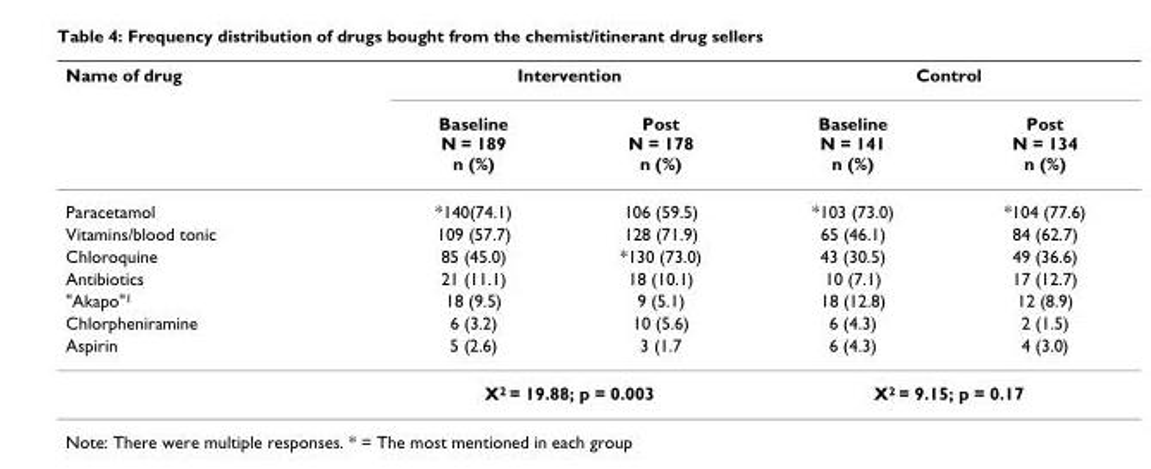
<table><thead><tr><td rowspan="2">Name of drug</td><td colspan="2">Intervention</td><td colspan="2">Control</td></tr><tr><td>Baseline N = 189 n (%)</td><td>Post N = 178 n (%)</td><td>Baseline N = 141 n (%)</td><td>Post N = 134 n (%)</td></tr></thead><tbody><tr><td>Paracetamol</td><td>*140(74.1)</td><td>106 (59.5)</td><td>*103 (73.0)</td><td>*104 (77.6)</td></tr><tr><td>Vitamins/blood tonic</td><td>109 (57.7)</td><td>128 (71.9)</td><td>65 (46.1)</td><td>84 (62.7)</td></tr><tr><td>Chloroquine</td><td>85 (45.0)</td><td>*130 (73.0)</td><td>43 (30.5)</td><td>49 (36.6)</td></tr><tr><td>Antibiotics</td><td>21 (11.1)</td><td>18 (10.1)</td><td>10 (7.1)</td><td>17 (12.7)</td></tr><tr><td>&quot;Akapo&quot;<sup>1</sup></td><td>18 (9.5)</td><td>9 (5.1)</td><td>18 (12.8)</td><td>12 (8.9)</td></tr><tr><td>Chlorpheniramine</td><td>6 (3.2)</td><td>10 (5.6)</td><td>6 (4.3)</td><td>2 (1.5)</td></tr><tr><td rowspan="2">Aspirin</td><td>5 (2.6)</td><td>3 (1.7</td><td>6 (4.3)</td><td>4 (3.0)</td></tr><tr><td colspan="2">X<sup>2</sup> = 19.88; p = 0.003</td><td colspan="2">X<sup>2</sup> = 9.15; p = 0.17</td></tr></tbody></table>